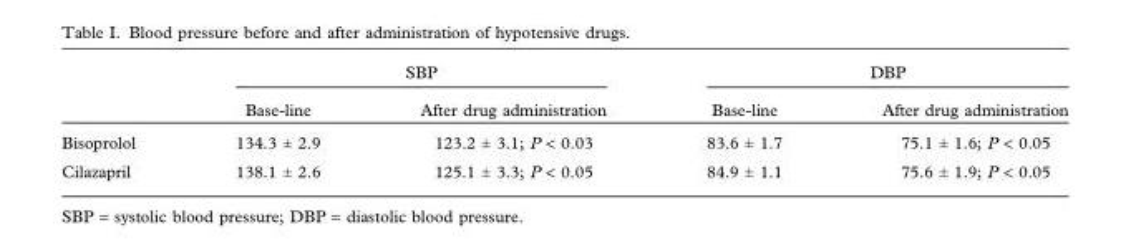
<table><thead><tr><td rowspan="2"></td><td colspan="2">SBP</td><td colspan="2">DBP</td></tr><tr><td>Base-line</td><td>After drug administration</td><td>Base-line</td><td>After drug administration</td></tr></thead><tbody><tr><td>Bisoprolol</td><td>134.3 ± 2.9</td><td>123.2 ± 3.1; P &lt; 0.03</td><td>83.6 ± 1.7</td><td>75.1 ± 1.6; P &lt; 0.05</td></tr><tr><td>Cilazapril</td><td>138.1 ± 2.6</td><td>125.1 ± 3.3; P &lt; 0.05</td><td>84.9 ± 1.1</td><td>75.6 ± 1.9; P &lt; 0.05</td></tr></tbody></table>